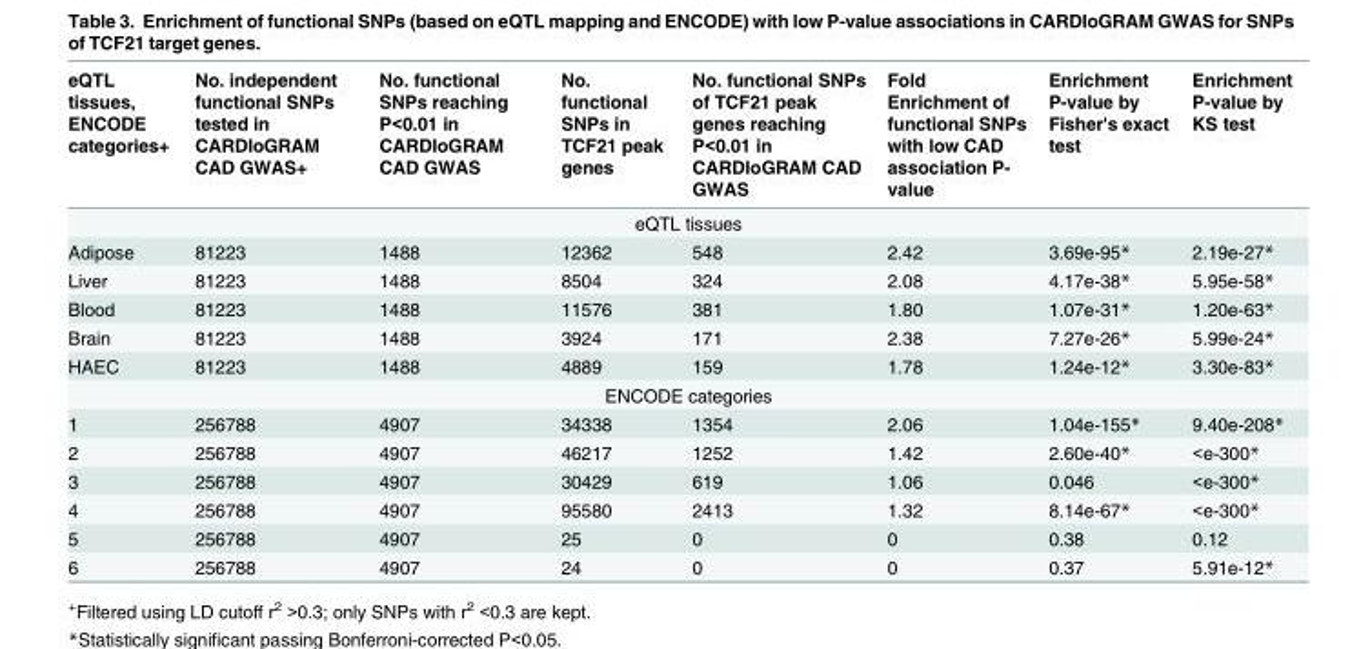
<table><thead><tr><td>eQTL tissues, ENCODE categories+</td><td>No. independent functional SNPs tested in CARDIoGRAM CAD GWAS+</td><td>No. functional SNPs reaching P&lt;0.01 in CARDIoGRAM CAD GWAS</td><td>No. functional SNPs in TCF21 peak genes</td><td>No. functional SNPs of TCF21 peak genes reaching P&lt;0.01 in CARDIoGRAM CAD GWAS</td><td>Fold Enrichment of functional SNPs with low CAD association P- value</td><td>Enrichment P-value by Fisher&#x27;s exact test</td><td>Enrichment P-value by KS test</td></tr></thead><tbody><tr><td colspan="8">eQTL tissues</td></tr><tr><td>Adipose</td><td>81223</td><td>1488</td><td>12362</td><td>548</td><td>2.42</td><td>3.69e-95*</td><td>2.19e-27*</td></tr><tr><td>Liver</td><td>81223</td><td>1488</td><td>8504</td><td>324</td><td>2.08</td><td>4.17e-38*</td><td>5.95e-58*</td></tr><tr><td>Blood</td><td>81223</td><td>1488</td><td>11576</td><td>381</td><td>1.80</td><td>1.07e-31*</td><td>1.20e-63*</td></tr><tr><td>Brain</td><td>81223</td><td>1488</td><td>3924</td><td>171</td><td>2.38</td><td>7.27e-26*</td><td>5.99e-24*</td></tr><tr><td>HAEC</td><td>81223</td><td>1488</td><td>4889</td><td>159</td><td>1.78</td><td>1.24e-12*</td><td>3.30e-83*</td></tr><tr><td colspan="8">ENCODE categories</td></tr><tr><td>1</td><td>256788</td><td>4907</td><td>34338</td><td>1354</td><td>2.06</td><td>1.04e-155*</td><td>9.40e-208*</td></tr><tr><td>2</td><td>256788</td><td>4907</td><td>46217</td><td>1252</td><td>1.42</td><td>2.60e-40*</td><td>&lt;e-300*</td></tr><tr><td>3</td><td>256788</td><td>4907</td><td>30429</td><td>619</td><td>1.06</td><td>0.046</td><td>&lt;e-300*</td></tr><tr><td>4</td><td>256788</td><td>4907</td><td>95580</td><td>2413</td><td>1.32</td><td>8.14e-67*</td><td>&lt;e-300*</td></tr><tr><td>5</td><td>256788</td><td>4907</td><td>25</td><td>0</td><td>0</td><td>0.38</td><td>0.12</td></tr><tr><td>6</td><td>256788</td><td>4907</td><td>24</td><td>0</td><td>0</td><td>0.37</td><td>5.91e-12*</td></tr></tbody></table>